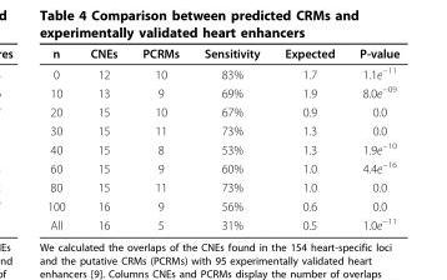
<table><thead><tr><td>n</td><td>CNEs</td><td>PCRMs</td><td>Sensitivity</td><td>Expected</td><td>P-value</td></tr></thead><tbody><tr><td>0</td><td>12</td><td>10</td><td>83%</td><td>1.7</td><td>1.1e<sup>−11</sup></td></tr><tr><td>10</td><td>13</td><td>9</td><td>69%</td><td>1.9</td><td>8.0e<sup>−09</sup></td></tr><tr><td>20</td><td>15</td><td>10</td><td>67%</td><td>0.9</td><td>0.0</td></tr><tr><td>30</td><td>15</td><td>11</td><td>73%</td><td>1.3</td><td>0.0</td></tr><tr><td>40</td><td>15</td><td>8</td><td>53%</td><td>1.3</td><td>1.9e<sup>−10</sup></td></tr><tr><td>60</td><td>15</td><td>9</td><td>60%</td><td>1.0</td><td>4.4e<sup>−16</sup></td></tr><tr><td>80</td><td>15</td><td>11</td><td>73%</td><td>1.0</td><td>0.0</td></tr><tr><td>100</td><td>16</td><td>9</td><td>56%</td><td>0.6</td><td>0.0</td></tr><tr><td>All</td><td>16</td><td>5</td><td>31%</td><td>0.5</td><td>1.0e<sup>−11</sup></td></tr></tbody></table>